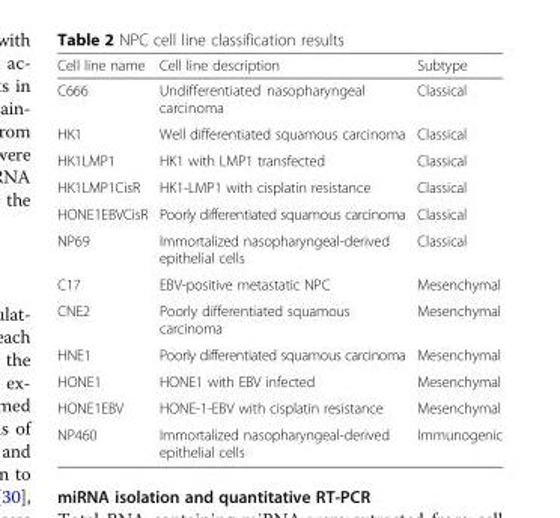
<table><thead><tr><td>Cell line name</td><td>Cell line description</td><td>Subtype</td></tr></thead><tbody><tr><td>C666</td><td>Undifferentiated nasopharyngeal carcinoma</td><td>Classical</td></tr><tr><td>HK1</td><td>Well differentiated squamous carcinoma</td><td>Classical</td></tr><tr><td>HK1LMP1</td><td>HK1 with LMP1 transfected</td><td>Classical</td></tr><tr><td>HK1LMP1CisR</td><td>HK1-LMP1 with cisplatin resistance</td><td>Classical</td></tr><tr><td>HONE1EBVCisR</td><td>Poorly differentiated squamous carcinoma</td><td>Classical</td></tr><tr><td>NP69</td><td>Immortalized nasopharyngeal-derived epithelial cells</td><td>Classical</td></tr><tr><td>C17</td><td>EBV-positive metastatic NPC</td><td>Mesenchymal</td></tr><tr><td>CNE2</td><td>Poorly differentiated squamous carcinoma</td><td>Mesenchymal</td></tr><tr><td>HNE1</td><td>Poorly differentiated squamous carcinoma</td><td>Mesenchymal</td></tr><tr><td>HONE1</td><td>HONE1 with EBV infected</td><td>Mesenchymal</td></tr><tr><td>HONE1EBV</td><td>HONE-1-EBV with cisplatin resistance</td><td>Mesenchymal</td></tr><tr><td>NP460</td><td>Immortalized nasopharyngeal-derived epithelial cells</td><td>Immunogenic</td></tr></tbody></table>